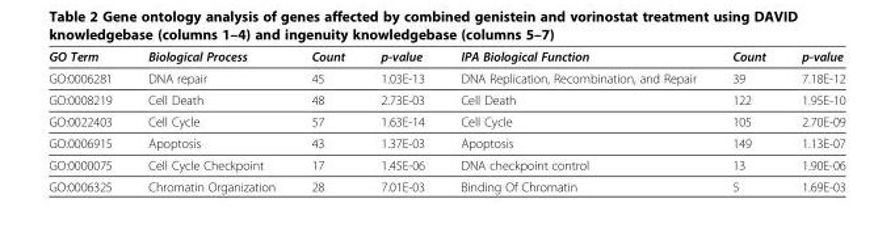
<table><thead><tr><td>GO Term</td><td>Biological Process</td><td>Count</td><td>p-value</td><td>IPA Biological Function</td><td>Count</td><td>p-value</td></tr></thead><tbody><tr><td>GO:0006281</td><td>DNA repair</td><td>45</td><td>1.03E-13</td><td>DNA Replication, Recombination, and Repair</td><td>39</td><td>7.18E-12</td></tr><tr><td>GO:0008219</td><td>Cell Death</td><td>48</td><td>2.73E-03</td><td>Cell Death</td><td>122</td><td>1.95E-10</td></tr><tr><td>GO:0022403</td><td>Cell Cycle</td><td>57</td><td>1.63E-14</td><td>Cell Cycle</td><td>105</td><td>2.70E-09</td></tr><tr><td>GO:0006915</td><td>Apoptosis</td><td>43</td><td>1.37E-03</td><td>Apoptosis</td><td>149</td><td>1.13E-07</td></tr><tr><td>GO:0000075</td><td>Cell Cycle Checkpoint</td><td>17</td><td>1.45E-06</td><td>DNA checkpoint control</td><td>13</td><td>1.90E-06</td></tr><tr><td>GO:0006325</td><td>Chromatin Organization</td><td>28</td><td>7.01E-03</td><td>Binding Of Chromatin</td><td>5</td><td>1.69E-03</td></tr></tbody></table>